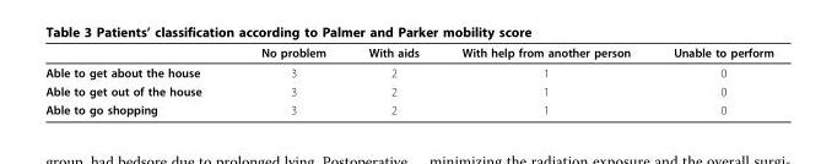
<table><thead><tr><td></td><td>No problem</td><td>With aids</td><td>With help from another person</td><td>Unable to perform</td></tr></thead><tbody><tr><td>Able to get about the house</td><td>3</td><td>2</td><td>1</td><td>0</td></tr><tr><td>Able to get out of the house</td><td>3</td><td>2</td><td>1</td><td>0</td></tr><tr><td>Able to go shopping</td><td>3</td><td>2</td><td>1</td><td>0</td></tr></tbody></table>